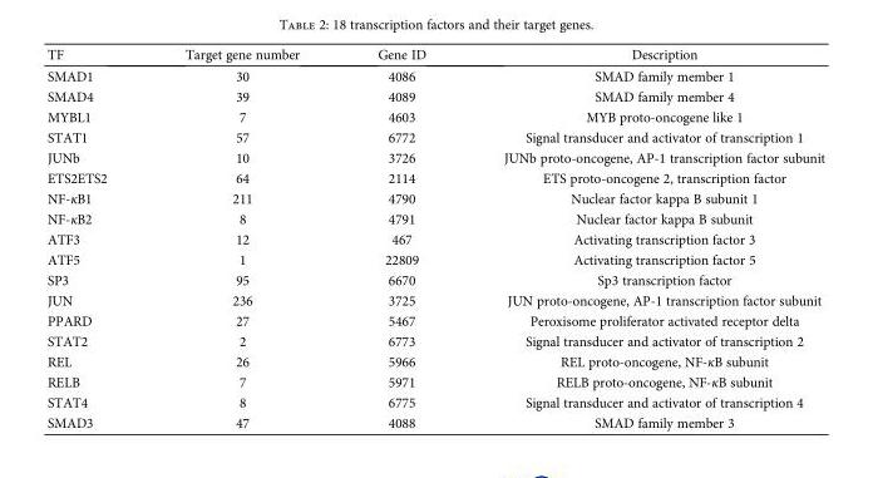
<table><thead><tr><td>TF</td><td>Target gene number</td><td>Gene ID</td><td>Description</td></tr></thead><tbody><tr><td>SMAD1</td><td>30</td><td>4086</td><td>SMAD family member 1</td></tr><tr><td>SMAD4</td><td>39</td><td>4089</td><td>SMAD family member 4</td></tr><tr><td>MYBL1</td><td>7</td><td>4603</td><td>MYB proto-oncogene like 1</td></tr><tr><td>STAT1</td><td>57</td><td>6772</td><td>Signal transducer and activator of transcription 1</td></tr><tr><td>JUNb</td><td>10</td><td>3726</td><td>JUNb proto-oncogene, AP-1 transcription factor subunit</td></tr><tr><td>ETS2ETS2</td><td>64</td><td>2114</td><td>ETS proto-oncogene 2, transcription factor</td></tr><tr><td>NF-κB1</td><td>211</td><td>4790</td><td>Nuclear factor kappa B subunit 1</td></tr><tr><td>NF-κB2</td><td>8</td><td>4791</td><td>Nuclear factor kappa B subunit</td></tr><tr><td>ATF3</td><td>12</td><td>467</td><td>Activating transcription factor 3</td></tr><tr><td>ATF5</td><td>1</td><td>22809</td><td>Activating transcription factor 5</td></tr><tr><td>SP3</td><td>95</td><td>6670</td><td>Sp3 transcription factor</td></tr><tr><td>JUN</td><td>236</td><td>3725</td><td>JUN proto-oncogene, AP-1 transcription factor subunit</td></tr><tr><td>PPARD</td><td>27</td><td>5467</td><td>Peroxisome proliferator activated receptor delta</td></tr><tr><td>STAT2</td><td>2</td><td>6773</td><td>Signal transducer and activator of transcription 2</td></tr><tr><td>REL</td><td>26</td><td>5966</td><td>REL proto-oncogene, NF-κB subunit</td></tr><tr><td>RELB</td><td>7</td><td>5971</td><td>RELB proto-oncogene, NF-κB subunit</td></tr><tr><td>STAT4</td><td>8</td><td>6775</td><td>Signal transducer and activator of transcription 4</td></tr><tr><td>SMAD3</td><td>47</td><td>4088</td><td>SMAD family member 3</td></tr></tbody></table>